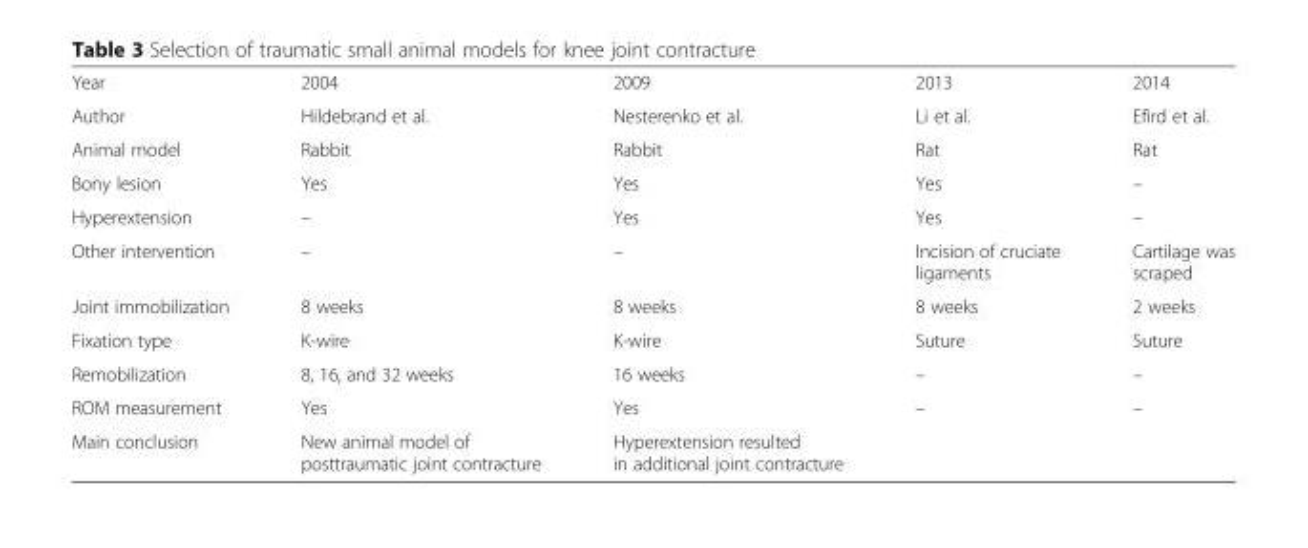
<table><tbody><tr><td>Year</td><td>2004</td><td>2009</td><td>2013</td><td>2014</td></tr><tr><td>Author</td><td>Hildebrand et al.</td><td>Nesterenko et al.</td><td>Li et al.</td><td>Efird et al.</td></tr><tr><td>Animal model</td><td>Rabbit</td><td>Rabbit</td><td>Rat</td><td>Rat</td></tr><tr><td>Bony lesion</td><td>Yes</td><td>Yes</td><td>Yes</td><td>–</td></tr><tr><td>Hyperextension</td><td>–</td><td>Yes</td><td>Yes</td><td>–</td></tr><tr><td>Other intervention</td><td>–</td><td>–</td><td>Incision of cruciate ligaments</td><td>Cartilage was scraped</td></tr><tr><td>Joint immobilization</td><td>8 weeks</td><td>8 weeks</td><td>8 weeks</td><td>2 weeks</td></tr><tr><td>Fixation type</td><td>K-wire</td><td>K-wire</td><td>Suture</td><td>Suture</td></tr><tr><td>Remobilization</td><td>8, 16, and 32 weeks</td><td>16 weeks</td><td>–</td><td>–</td></tr><tr><td>ROM measurement</td><td>Yes</td><td>Yes</td><td>–</td><td>–</td></tr><tr><td>Main conclusion</td><td>New animal model of posttraumatic joint contracture</td><td>Hyperextension resulted in additional joint contracture</td><td></td><td></td></tr></tbody></table>